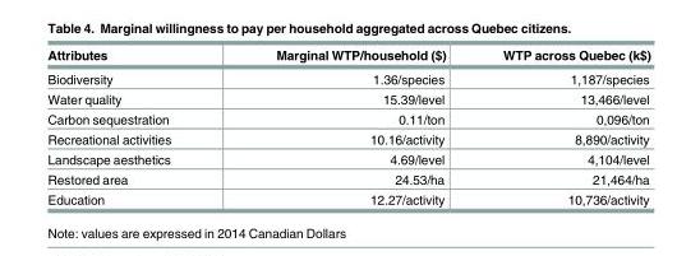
<table><thead><tr><td>Attributes</td><td>Marginal WTP/household ($)</td><td>WTP across Quebec (k$)</td></tr></thead><tbody><tr><td>Biodiversity</td><td>1.36/species</td><td>1,187/species</td></tr><tr><td>Water quality</td><td>15.39/level</td><td>13,466/level</td></tr><tr><td>Carbon sequestration</td><td>0.11/ton</td><td>0,096/ton</td></tr><tr><td>Recreational activities</td><td>10.16/activity</td><td>8,890/activity</td></tr><tr><td>Landscape aesthetics</td><td>4.69/level</td><td>4,104/level</td></tr><tr><td>Restored area</td><td>24.53/ha</td><td>21,464/ha</td></tr><tr><td>Education</td><td>12.27/activity</td><td>10,736/activity</td></tr></tbody></table>